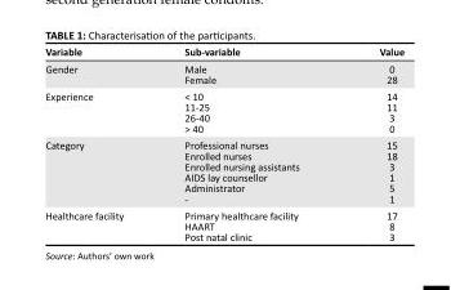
<table><thead><tr><td>Variable</td><td>Sub-variable</td><td>Value</td></tr></thead><tbody><tr><td rowspan="2">Gender</td><td>Male</td><td>0</td></tr><tr><td>Female</td><td>28</td></tr><tr><td rowspan="4">Experience</td><td>&lt; 10</td><td>14</td></tr><tr><td>11-25</td><td>11</td></tr><tr><td>26-40</td><td>3</td></tr><tr><td>&gt; 40</td><td>0</td></tr><tr><td rowspan="6">Category</td><td>Professional nurses</td><td>15</td></tr><tr><td>Enrolled nurses</td><td>18</td></tr><tr><td>Enrolled nursing assistants</td><td>3</td></tr><tr><td>AIDS lay counsellor</td><td>1</td></tr><tr><td>Administrator</td><td>5</td></tr><tr><td>-</td><td>1</td></tr><tr><td rowspan="3">Healthcare facility</td><td>Primary healthcare facility</td><td>17</td></tr><tr><td>HAART</td><td>8</td></tr><tr><td>Post natal clinic</td><td>3</td></tr></tbody></table>